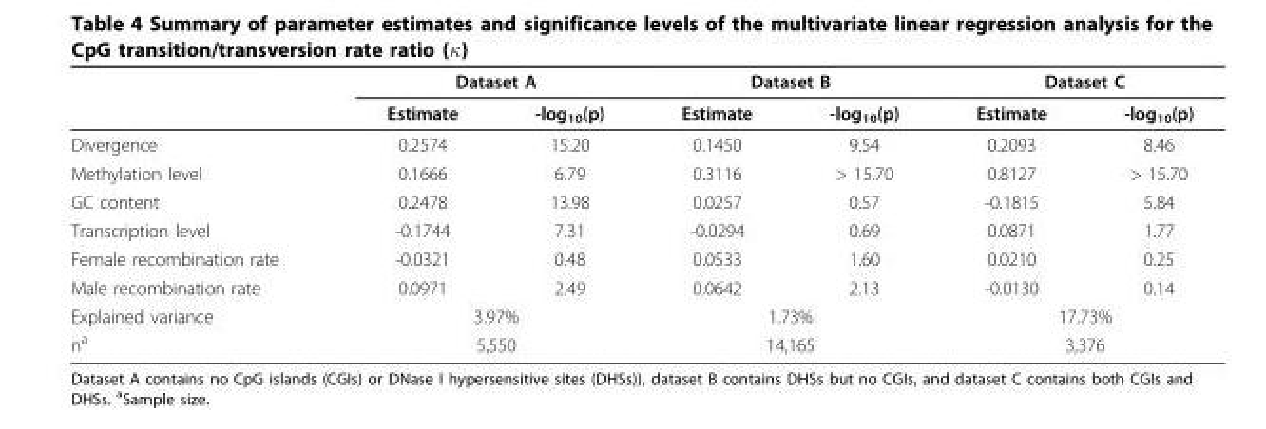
<table><thead><tr><td rowspan="2"></td><td colspan="2">Dataset A</td><td colspan="2">Dataset B</td><td colspan="2">Dataset C</td></tr><tr><td>Estimate</td><td>-log<sub>10</sub>(p)</td><td>Estimate</td><td>-log<sub>10</sub>(p)</td><td>Estimate</td><td>-log<sub>10</sub>(p)</td></tr></thead><tbody><tr><td>Divergence</td><td>0.2574</td><td>15.20</td><td>0.1450</td><td>9.54</td><td>0.2093</td><td>8.46</td></tr><tr><td>Methylation level</td><td>0.1666</td><td>6.79</td><td>0.3116</td><td>&gt; 15.70</td><td>0.8127</td><td>&gt; 15.70</td></tr><tr><td>GC content</td><td>0.2478</td><td>13.98</td><td>0.0257</td><td>0.57</td><td>-0.1815</td><td>5.84</td></tr><tr><td>Transcription level</td><td>-0.1744</td><td>7.31</td><td>-0.0294</td><td>0.69</td><td>0.0871</td><td>1.77</td></tr><tr><td>Female recombination rate</td><td>-0.0321</td><td>0.48</td><td>0.0533</td><td>1.60</td><td>0.0210</td><td>0.25</td></tr><tr><td>Male recombination rate</td><td>0.0971</td><td>2.49</td><td>0.0642</td><td>2.13</td><td>-0.0130</td><td>0.14</td></tr><tr><td>Explained variance</td><td colspan="2">3.97%</td><td colspan="2">1.73%</td><td colspan="2">17.73%</td></tr><tr><td>n<sup>a</sup></td><td colspan="2">5,550</td><td colspan="2">14,165</td><td colspan="2">3,376</td></tr></tbody></table>